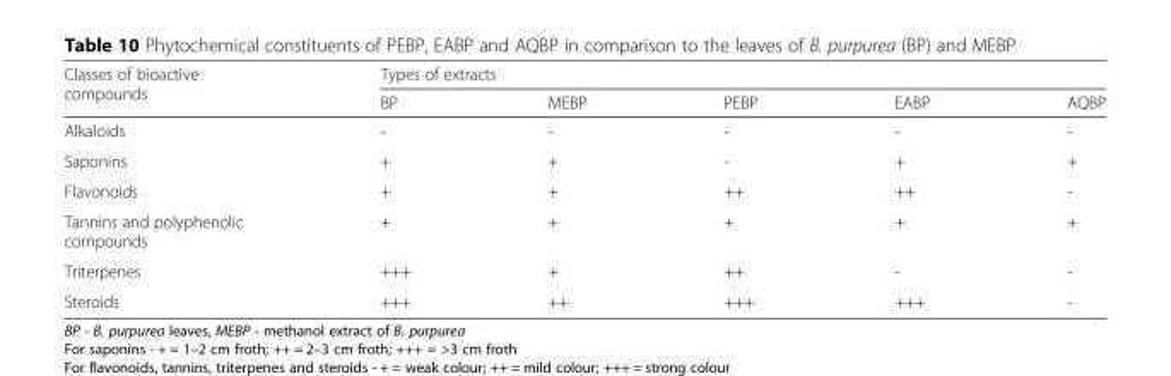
<table><thead><tr><td rowspan="2">Classes of bioactive compounds</td><td colspan="5">Types of extracts</td></tr><tr><td>BP</td><td>MEBP</td><td>PEBP</td><td>EABP</td><td>AQBP</td></tr></thead><tbody><tr><td>Alkaloids</td><td>-</td><td>-</td><td>-</td><td>-</td><td>-</td></tr><tr><td>Saponins</td><td>+</td><td>+</td><td>-</td><td>+</td><td>+</td></tr><tr><td>Flavonoids</td><td>+</td><td>+</td><td>++</td><td>++</td><td>-</td></tr><tr><td>Tannins and polyphenolic compounds</td><td>+</td><td>+</td><td>+</td><td>+</td><td>+</td></tr><tr><td>Triterpenes</td><td>+++</td><td>+</td><td>++</td><td>-</td><td>-</td></tr><tr><td>Steroids</td><td>+++</td><td>++</td><td>+++</td><td>+++</td><td>-</td></tr></tbody></table>